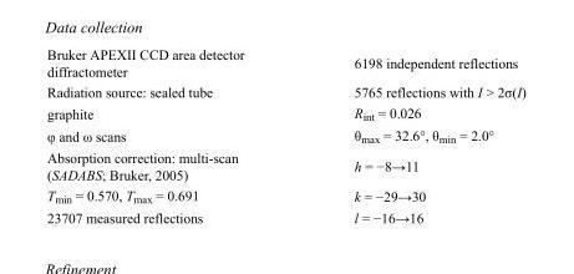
<table><tbody><tr><td>Bruker APEXII CCD area detector diffractometer</td><td>6198 independent reflections</td></tr><tr><td>Radiation source: sealed tube</td><td>5765 reflections with I &gt; 2σ(I)</td></tr><tr><td>graphite</td><td>R<sub>int</sub> = 0.026</td></tr><tr><td>φ and ω scans</td><td>θ<sub>max</sub> = 32.6°, θ<sub>min</sub> = 2.0°</td></tr><tr><td>Absorption correction: multi-scan (SADABS; Bruker, 2005)</td><td>h = −8→11</td></tr><tr><td>T<sub>min</sub> = 0.570, T<sub>max</sub> = 0.691</td><td>k = −29→30</td></tr><tr><td>23707 measured reflections</td><td>l = −16→16</td></tr></tbody></table>